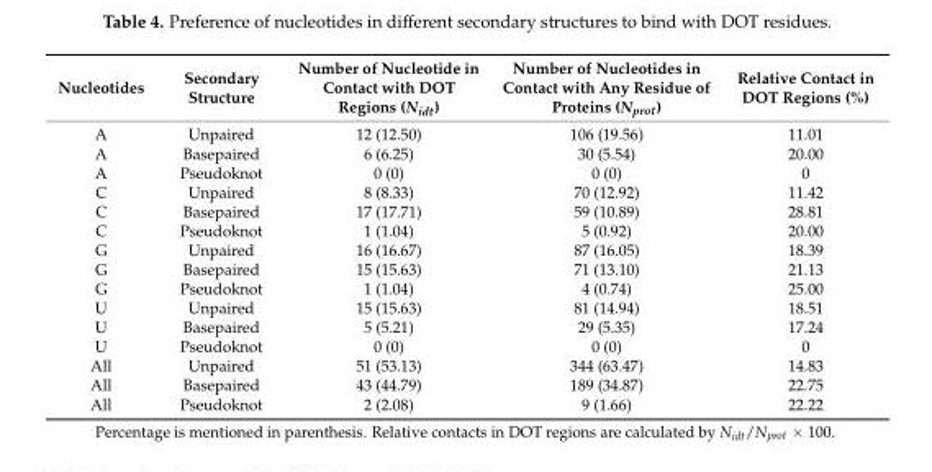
<table><thead><tr><td>Nucleotides</td><td>Secondary Structure</td><td>Number of Nucleotide in Contact with DOT Regions (N<sub>idt</sub>)</td><td>Number of Nucleotides in Contact with Any Residue of Proteins (N<sub>prot</sub>)</td><td>Relative Contact in DOT Regions (%)</td></tr></thead><tbody><tr><td>A</td><td>Unpaired</td><td>12 (12.50)</td><td>106 (19.56)</td><td>11.01</td></tr><tr><td>A</td><td>Basepaired</td><td>6 (6.25)</td><td>30 (5.54)</td><td>20.00</td></tr><tr><td>A</td><td>Pseudoknot</td><td>0 (0)</td><td>0 (0)</td><td>0</td></tr><tr><td>C</td><td>Unpaired</td><td>8 (8.33)</td><td>70 (12.92)</td><td>11.42</td></tr><tr><td>C</td><td>Basepaired</td><td>17 (17.71)</td><td>59 (10.89)</td><td>28.81</td></tr><tr><td>C</td><td>Pseudoknot</td><td>1 (1.04)</td><td>5 (0.92)</td><td>20.00</td></tr><tr><td>G</td><td>Unpaired</td><td>16 (16.67)</td><td>87 (16.05)</td><td>18.39</td></tr><tr><td>G</td><td>Basepaired</td><td>15 (15.63)</td><td>71 (13.10)</td><td>21.13</td></tr><tr><td>G</td><td>Pseudoknot</td><td>1 (1.04)</td><td>4 (0.74)</td><td>25.00</td></tr><tr><td>U</td><td>Unpaired</td><td>15 (15.63)</td><td>81 (14.94)</td><td>18.51</td></tr><tr><td>U</td><td>Basepaired</td><td>5 (5.21)</td><td>29 (5.35)</td><td>17.24</td></tr><tr><td>U</td><td>Pseudoknot</td><td>0 (0)</td><td>0 (0)</td><td>0</td></tr><tr><td>All</td><td>Unpaired</td><td>51 (53.13)</td><td>344 (63.47)</td><td>14.83</td></tr><tr><td>All</td><td>Basepaired</td><td>43 (44.79)</td><td>189 (34.87)</td><td>22.75</td></tr><tr><td>All</td><td>Pseudoknot</td><td>2 (2.08)</td><td>9 (1.66)</td><td>22.22</td></tr></tbody></table>